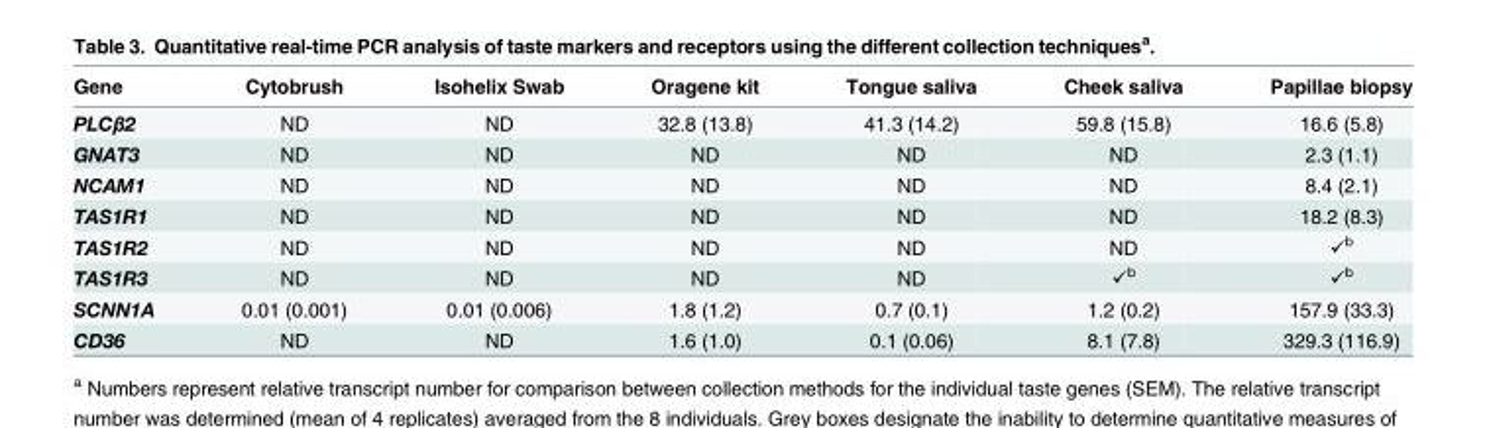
<table><thead><tr><td>Gene</td><td>Cytobrush</td><td>Isohelix Swab</td><td>Oragene kit</td><td>Tongue saliva</td><td>Cheek saliva</td><td>Papillae biopsy</td></tr></thead><tbody><tr><td>PLCβ2</td><td>ND</td><td>ND</td><td>32.8 (13.8)</td><td>41.3 (14.2)</td><td>59.8 (15.8)</td><td>16.6 (5.8)</td></tr><tr><td>GNAT3</td><td>ND</td><td>ND</td><td>ND</td><td>ND</td><td>ND</td><td>2.3 (1.1)</td></tr><tr><td>NCAM1</td><td>ND</td><td>ND</td><td>ND</td><td>ND</td><td>ND</td><td>8.4 (2.1)</td></tr><tr><td>TAS1R1</td><td>ND</td><td>ND</td><td>ND</td><td>ND</td><td>ND</td><td>18.2 (8.3)</td></tr><tr><td>TAS1R2</td><td>ND</td><td>ND</td><td>ND</td><td>ND</td><td>ND</td><td>✓<sup>b</sup></td></tr><tr><td>TAS1R3</td><td>ND</td><td>ND</td><td>ND</td><td>ND</td><td>✓<sup>b</sup></td><td>✓<sup>b</sup></td></tr><tr><td>SCNN1A</td><td>0.01 (0.001)</td><td>0.01 (0.006)</td><td>1.8 (1.2)</td><td>0.7 (0.1)</td><td>1.2 (0.2)</td><td>157.9 (33.3)</td></tr><tr><td>CD36</td><td>ND</td><td>ND</td><td>1.6 (1.0)</td><td>0.1 (0.06)</td><td>8.1 (7.8)</td><td>329.3 (116.9)</td></tr></tbody></table>